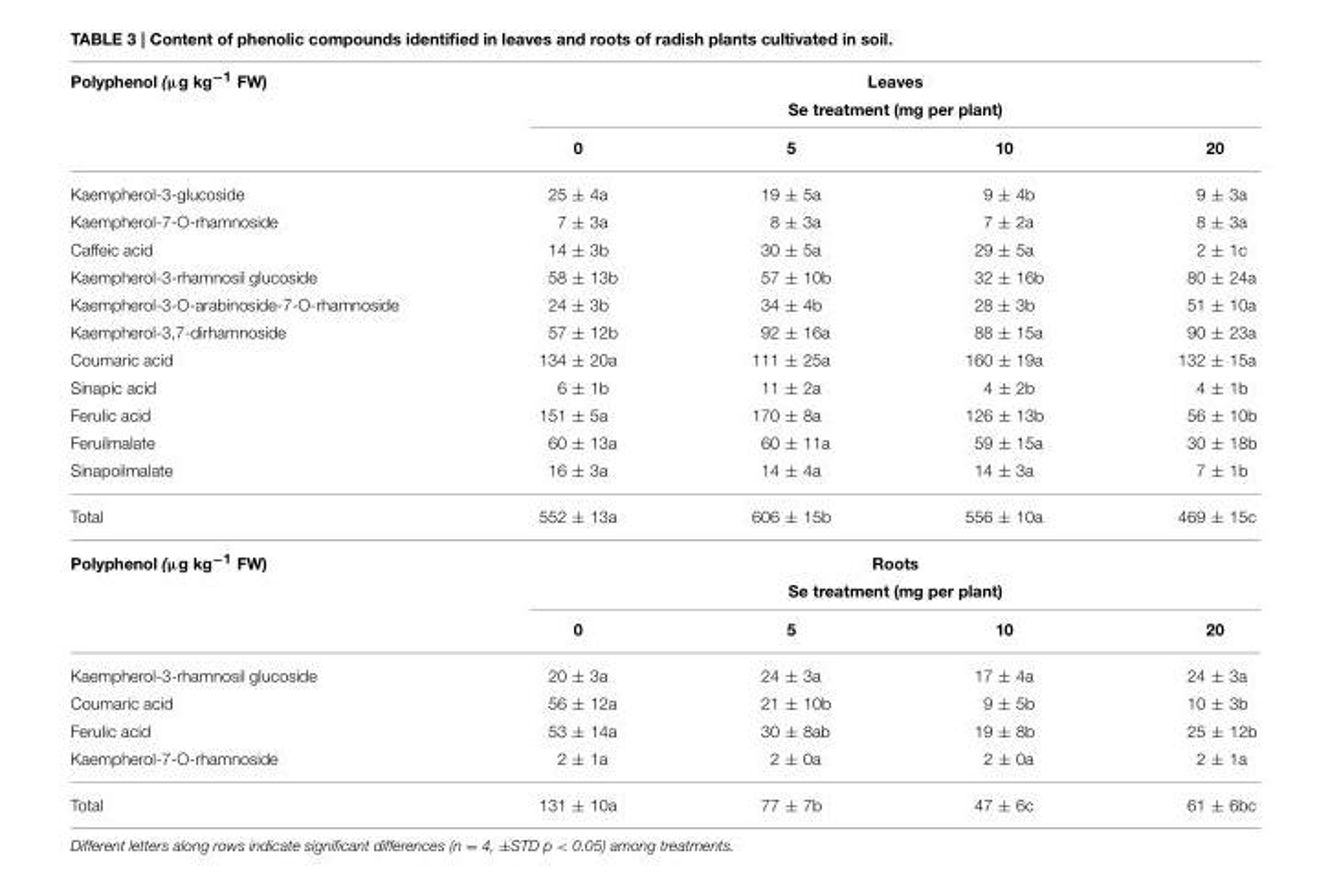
<table><thead><tr><td rowspan="3">Polyphenol (µg kg<sup>−1</sup> FW)</td><td rowspan="2" colspan="4">Leaves Se treatment (mg per plant)</td></tr><tr></tr><tr><td>0</td><td>5</td><td>10</td><td>20</td></tr></thead><tbody><tr><td>Kaempherol-3-glucoside</td><td>25 ± 4a</td><td>19 ± 5a</td><td>9 ± 4b</td><td>9 ± 3a</td></tr><tr><td>Kaempherol-7-O-rhamnoside</td><td>7 ± 3a</td><td>8 ± 3a</td><td>7 ± 2a</td><td>8 ± 3a</td></tr><tr><td>Caffeic acid</td><td>14 ± 3b</td><td>30 ± 5a</td><td>29 ± 5a</td><td>2 ± 1c</td></tr><tr><td>Kaempherol-3-rhamnosil glucoside</td><td>58 ± 13b</td><td>57 ± 10b</td><td>32 ± 16b</td><td>80 ± 24a</td></tr><tr><td>Kaempherol-3-O-arabinoside-7-O-rhamnoside</td><td>24 ± 3b</td><td>34 ± 4b</td><td>28 ± 3b</td><td>51 ± 10a</td></tr><tr><td>Kaempherol-3,7-dirhamnoside</td><td>57 ± 12b</td><td>92 ± 16a</td><td>88 ± 15a</td><td>90 ± 23a</td></tr><tr><td>Coumaric acid</td><td>134 ± 20a</td><td>111 ± 25a</td><td>160 ± 19a</td><td>132 ± 15a</td></tr><tr><td>Sinapic acid</td><td>6 ± 1b</td><td>11 ± 2a</td><td>4 ± 2b</td><td>4 ± 1b</td></tr><tr><td>Ferulic acid</td><td>151 ± 5a</td><td>170 ± 8a</td><td>126 ± 13b</td><td>56 ± 10b</td></tr><tr><td>Feruilmalate</td><td>60 ± 13a</td><td>60 ± 11a</td><td>59 ± 15a</td><td>30 ± 18b</td></tr><tr><td>Sinapoilmalate</td><td>16 ± 3a</td><td>14 ± 4a</td><td>14 ± 3a</td><td>7 ± 1b</td></tr><tr><td>Total</td><td>552 ± 13a</td><td>606 ± 15b</td><td>556 ± 10a</td><td>469 ± 15c</td></tr><tr><td rowspan="3">Polyphenol (µg kg<sup>−1</sup> FW)</td><td colspan="4">Roots</td></tr><tr><td colspan="4">Se treatment (mg per plant)</td></tr><tr><td>0</td><td>5</td><td>10</td><td>20</td></tr><tr><td>Kaempherol-3-rhamnosil glucoside</td><td>20 ± 3a</td><td>24 ± 3a</td><td>17 ± 4a</td><td>24 ± 3a</td></tr><tr><td>Coumaric acid</td><td>56 ± 12a</td><td>21 ± 10b</td><td>9 ± 5b</td><td>10 ± 3b</td></tr><tr><td>Ferulic acid</td><td>53 ± 14a</td><td>30 ± 8ab</td><td>19 ± 8b</td><td>25 ± 12b</td></tr><tr><td>Kaempherol-7-O-rhamnoside</td><td>2 ± 1a</td><td>2 ± 0a</td><td>2 ± 0a</td><td>2 ± 1a</td></tr><tr><td>Total</td><td>131 ± 10a</td><td>77 ± 7b</td><td>47 ± 6c</td><td>61 ± 6bc</td></tr></tbody></table>